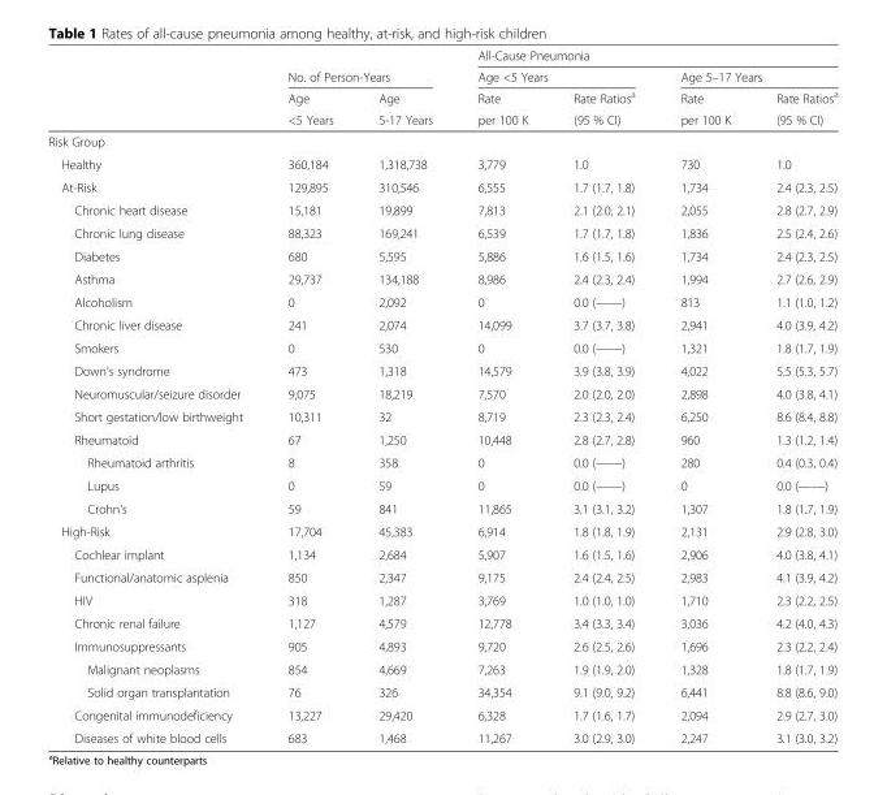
<table><thead><tr><td rowspan="4"></td><td></td><td></td><td colspan="4">All-Cause Pneumonia</td></tr><tr><td colspan="2">No. of Person-Years</td><td colspan="2">Age &lt;5 Years</td><td colspan="2">Age 5–17 Years</td></tr><tr><td rowspan="2">Age &lt;5 Years</td><td rowspan="2">Age 5-17 Years</td><td rowspan="2">Rate per 100 K</td><td rowspan="2">Rate Ratios<sup>a</sup> (95 % CI)</td><td rowspan="2">Rate per 100 K</td><td rowspan="2">Rate Ratios<sup>a</sup> (95 % CI)</td></tr><tr></tr></thead><tbody><tr><td colspan="7">Risk Group</td></tr><tr><td>Healthy</td><td>360,184</td><td>1,318,738</td><td>3,779</td><td>1.0</td><td>730</td><td>1.0</td></tr><tr><td>At-Risk</td><td>129,895</td><td>310,546</td><td>6,555</td><td>1.7 (1.7, 1.8)</td><td>1,734</td><td>2.4 (2.3, 2.5)</td></tr><tr><td>Chronic heart disease</td><td>15,181</td><td>19,899</td><td>7,813</td><td>2.1 (2.0, 2.1)</td><td>2,055</td><td>2.8 (2.7, 2.9)</td></tr><tr><td>Chronic lung disease</td><td>88,323</td><td>169,241</td><td>6,539</td><td>1.7 (1.7, 1.8)</td><td>1,836</td><td>2.5 (2.4, 2.6)</td></tr><tr><td>Diabetes</td><td>680</td><td>5,595</td><td>5,886</td><td>1.6 (1.5, 1.6)</td><td>1,734</td><td>2.4 (2.3, 2.5)</td></tr><tr><td>Asthma</td><td>29,737</td><td>134,188</td><td>8,986</td><td>2.4 (2.3, 2.4)</td><td>1,994</td><td>2.7 (2.6, 2.9)</td></tr><tr><td>Alcoholism</td><td>0</td><td>2,092</td><td>0</td><td>0.0 (——)</td><td>813</td><td>1.1 (1.0, 1.2)</td></tr><tr><td>Chronic liver disease</td><td>241</td><td>2,074</td><td>14,099</td><td>3.7 (3.7, 3.8)</td><td>2,941</td><td>4.0 (3.9, 4.2)</td></tr><tr><td>Smokers</td><td>0</td><td>530</td><td>0</td><td>0.0 (——)</td><td>1,321</td><td>1.8 (1.7, 1.9)</td></tr><tr><td>Down&#x27;s syndrome</td><td>473</td><td>1,318</td><td>14,579</td><td>3.9 (3.8, 3.9)</td><td>4,022</td><td>5.5 (5.3, 5.7)</td></tr><tr><td>Neuromuscular/seizure disorder</td><td>9,075</td><td>18,219</td><td>7,570</td><td>2.0 (2.0, 2.0)</td><td>2,898</td><td>4.0 (3.8, 4.1)</td></tr><tr><td>Short gestation/low birthweight</td><td>10,311</td><td>32</td><td>8,719</td><td>2.3 (2.3, 2.4)</td><td>6,250</td><td>8.6 (8.4, 8.8)</td></tr><tr><td>Rheumatoid</td><td>67</td><td>1,250</td><td>10,448</td><td>2.8 (2.7, 2.8)</td><td>960</td><td>1.3 (1.2, 1.4)</td></tr><tr><td>Rheumatoid arthritis</td><td>8</td><td>358</td><td>0</td><td>0.0 (——)</td><td>280</td><td>0.4 (0.3, 0.4)</td></tr><tr><td>Lupus</td><td>0</td><td>59</td><td>0</td><td>0.0 (——)</td><td>0</td><td>0.0 (——)</td></tr><tr><td>Crohn&#x27;s</td><td>59</td><td>841</td><td>11,865</td><td>3.1 (3.1, 3.2)</td><td>1,307</td><td>1.8 (1.7, 1.9)</td></tr><tr><td>High-Risk</td><td>17,704</td><td>45,383</td><td>6,914</td><td>1.8 (1.8, 1.9)</td><td>2,131</td><td>2.9 (2.8, 3.0)</td></tr><tr><td>Cochlear implant</td><td>1,134</td><td>2,684</td><td>5,907</td><td>1.6 (1.5, 1.6)</td><td>2,906</td><td>4.0 (3.8, 4.1)</td></tr><tr><td>Functional/anatomic asplenia</td><td>850</td><td>2,347</td><td>9,175</td><td>2.4 (2.4, 2.5)</td><td>2,983</td><td>4.1 (3.9, 4.2)</td></tr><tr><td>HIV</td><td>318</td><td>1,287</td><td>3,769</td><td>1.0 (1.0, 1.0)</td><td>1,710</td><td>2.3 (2.2, 2.5)</td></tr><tr><td>Chronic renal failure</td><td>1,127</td><td>4,579</td><td>12,778</td><td>3.4 (3.3, 3.4)</td><td>3,036</td><td>4.2 (4.0, 4.3)</td></tr><tr><td>Immunosuppressants</td><td>905</td><td>4,893</td><td>9,720</td><td>2.6 (2.5, 2.6)</td><td>1,696</td><td>2.3 (2.2, 2.4)</td></tr><tr><td>Malignant neoplasms</td><td>854</td><td>4,669</td><td>7,263</td><td>1.9 (1.9, 2.0)</td><td>1,328</td><td>1.8 (1.7, 1.9)</td></tr><tr><td>Solid organ transplantation</td><td>76</td><td>326</td><td>34,354</td><td>9.1 (9.0, 9.2)</td><td>6,441</td><td>8.8 (8.6, 9.0)</td></tr><tr><td>Congenital immunodeficiency</td><td>13,227</td><td>29,420</td><td>6,328</td><td>1.7 (1.6, 1.7)</td><td>2,094</td><td>2.9 (2.7, 3.0)</td></tr><tr><td>Diseases of white blood cells</td><td>683</td><td>1,468</td><td>11,267</td><td>3.0 (2.9, 3.0)</td><td>2,247</td><td>3.1 (3.0, 3.2)</td></tr></tbody></table>